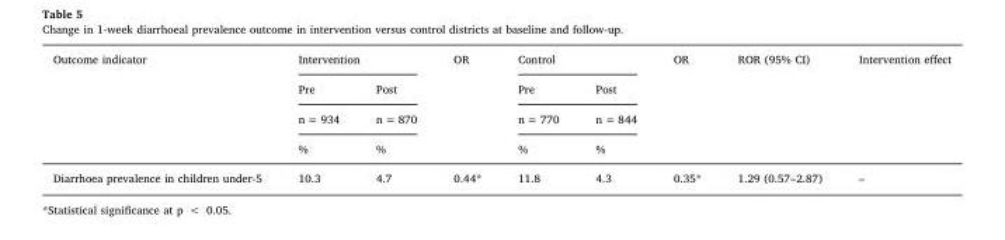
<table><thead><tr><td rowspan="4">Outcome indicator</td><td colspan="2">Intervention</td><td rowspan="4">OR</td><td colspan="2">Control</td><td rowspan="4">OR</td><td rowspan="4">ROR (95% CI)</td><td rowspan="4">Intervention effect</td></tr><tr><td rowspan="3">Pre n = 934 %</td><td rowspan="3">Post n = 870 %</td><td rowspan="3">Pre n = 770 %</td><td rowspan="3">Post n = 844 %</td></tr><tr></tr><tr></tr></thead><tbody><tr><td>Diarrhoea prevalence in children under-5</td><td>10.3</td><td>4.7</td><td>0.44*</td><td>11.8</td><td>4.3</td><td>0.35*</td><td>1.29 (0.57–2.87)</td><td>–</td></tr></tbody></table>